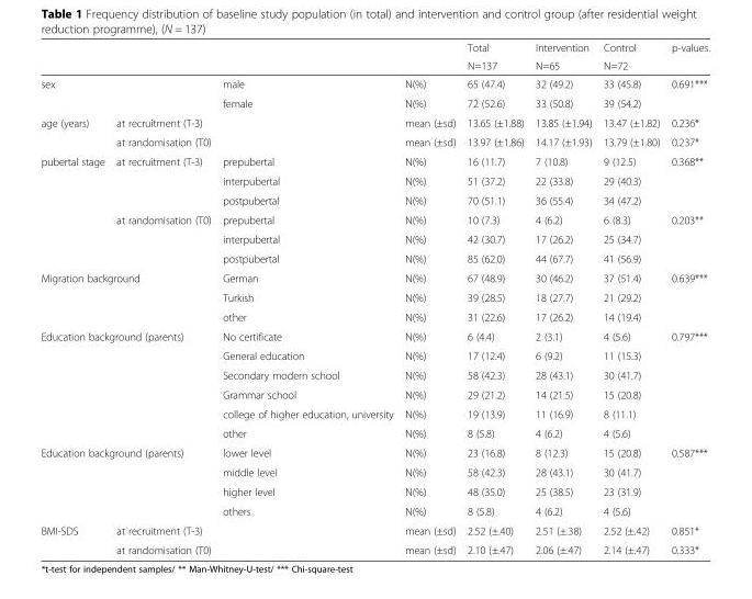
<table><thead><tr><td rowspan="2"></td><td rowspan="2"></td><td rowspan="2"></td><td rowspan="2"></td><td rowspan="2">Total N=137</td><td rowspan="2">Intervention N=65</td><td rowspan="2">Control N=72</td><td rowspan="2">p-values.</td></tr><tr></tr></thead><tbody><tr><td rowspan="2">sex</td><td></td><td>male</td><td>N(%)</td><td>65 (47.4)</td><td>32 (49.2)</td><td>33 (45.8)</td><td>0.691***</td></tr><tr><td></td><td>female</td><td>N(%)</td><td>72 (52.6)</td><td>33 (50.8)</td><td>39 (54.2)</td><td></td></tr><tr><td rowspan="2">age (years)</td><td>at recruitment (T-3)</td><td></td><td>mean (±sd)</td><td>13.65 (±1.88)</td><td>13.85 (±1.94)</td><td>13.47 (±1.82)</td><td>0.236*</td></tr><tr><td>at randomisation (T0)</td><td></td><td>mean (±sd)</td><td>13.97 (±1.86)</td><td>14.17 (±1.93)</td><td>13.79 (±1.80)</td><td>0.237*</td></tr><tr><td rowspan="6">pubertal stage</td><td>at recruitment (T-3)</td><td>prepubertal</td><td>N(%)</td><td>16 (11.7)</td><td>7 (10.8)</td><td>9 (12.5)</td><td>0.368**</td></tr><tr><td></td><td>interpubertal</td><td>N(%)</td><td>51 (37.2)</td><td>22 (33.8)</td><td>29 (40.3)</td><td></td></tr><tr><td></td><td>postpubertal</td><td>N(%)</td><td>70 (51.1)</td><td>36 (55.4)</td><td>34 (47.2)</td><td></td></tr><tr><td>at randomisation (T0)</td><td>prepubertal</td><td>N(%)</td><td>10 (7.3)</td><td>4 (6.2)</td><td>6 (8.3)</td><td>0.203**</td></tr><tr><td></td><td>interpubertal</td><td>N(%)</td><td>42 (30.7)</td><td>17 (26.2)</td><td>25 (34.7)</td><td></td></tr><tr><td></td><td>postpubertal</td><td>N(%)</td><td>85 (62.0)</td><td>44 (67.7)</td><td>41 (56.9)</td><td></td></tr><tr><td colspan="2">Migration background</td><td>German</td><td>N(%)</td><td>67 (48.9)</td><td>30 (46.2)</td><td>37 (51.4)</td><td>0.639***</td></tr><tr><td></td><td></td><td>Turkish</td><td>N(%)</td><td>39 (28.5)</td><td>18 (27.7)</td><td>21 (29.2)</td><td></td></tr><tr><td></td><td></td><td>other</td><td>N(%)</td><td>31 (22.6)</td><td>17 (26.2)</td><td>14 (19.4)</td><td></td></tr><tr><td colspan="2">Education background (parents)</td><td>No certificate</td><td>N(%)</td><td>6 (4.4)</td><td>2 (3.1)</td><td>4 (5.6)</td><td>0.797***</td></tr><tr><td></td><td></td><td>General education</td><td>N(%)</td><td>17 (12.4)</td><td>6 (9.2)</td><td>11 (15.3)</td><td></td></tr><tr><td></td><td></td><td>Secondary modern school</td><td>N(%)</td><td>58 (42.3)</td><td>28 (43.1)</td><td>30 (41.7)</td><td></td></tr><tr><td></td><td></td><td>Grammar school</td><td>N(%)</td><td>29 (21.2)</td><td>14 (21.5)</td><td>15 (20.8)</td><td></td></tr><tr><td></td><td></td><td>college of higher education, university</td><td>N(%)</td><td>19 (13.9)</td><td>11 (16.9)</td><td>8 (11.1)</td><td></td></tr><tr><td></td><td></td><td>other</td><td>N(%)</td><td>8 (5.8)</td><td>4 (6.2)</td><td>4 (5.6)</td><td></td></tr><tr><td colspan="2">Education background (parents)</td><td>lower level</td><td>N(%)</td><td>23 (16.8)</td><td>8 (12.3)</td><td>15 (20.8)</td><td>0.587***</td></tr><tr><td></td><td></td><td>middle level</td><td>N(%)</td><td>58 (42.3)</td><td>28 (43.1)</td><td>30 (41.7)</td><td></td></tr><tr><td></td><td></td><td>higher level</td><td>N(%)</td><td>48 (35.0)</td><td>25 (38.5)</td><td>23 (31.9)</td><td></td></tr><tr><td></td><td></td><td>others</td><td>N(%)</td><td>8 (5.8)</td><td>4 (6.2)</td><td>4 (5.6)</td><td></td></tr><tr><td rowspan="2">BMI-SDS</td><td>at recruitment (T-3)</td><td></td><td>mean (±sd)</td><td>2.52 (±.40)</td><td>2.51 (±.38)</td><td>2.52 (±.42)</td><td>0.851*</td></tr><tr><td>at randomisation (T0)</td><td></td><td>mean (±sd)</td><td>2.10 (±.47)</td><td>2.06 (±.47)</td><td>2.14 (±.47)</td><td>0.333*</td></tr></tbody></table>